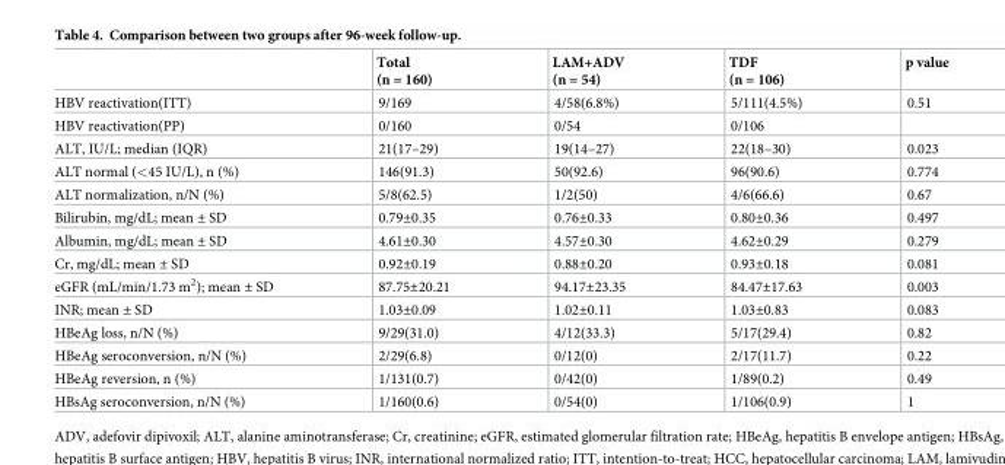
<table><thead><tr><td></td><td>Total (n = 160)</td><td>LAM+ADV (n = 54)</td><td>TDF (n = 106)</td><td>p value</td></tr></thead><tbody><tr><td>HBV reactivation(ITT)</td><td>9/169</td><td>4/58(6.8%)</td><td>5/111(4.5%)</td><td>0.51</td></tr><tr><td>HBV reactivation(PP)</td><td>0/160</td><td>0/54</td><td>0/106</td><td></td></tr><tr><td>ALT, IU/L; median (IQR)</td><td>21(17–29)</td><td>19(14–27)</td><td>22(18–30)</td><td>0.023</td></tr><tr><td>ALT normal (&lt;45 IU/L), n (%)</td><td>146(91.3)</td><td>50(92.6)</td><td>96(90.6)</td><td>0.774</td></tr><tr><td>ALT normalization, n/N (%)</td><td>5/8(62.5)</td><td>1/2(50)</td><td>4/6(66.6)</td><td>0.67</td></tr><tr><td>Bilirubin, mg/dL; mean ± SD</td><td>0.79±0.35</td><td>0.76±0.33</td><td>0.80±0.36</td><td>0.497</td></tr><tr><td>Albumin, mg/dL; mean ± SD</td><td>4.61±0.30</td><td>4.57±0.30</td><td>4.62±0.29</td><td>0.279</td></tr><tr><td>Cr, mg/dL; mean ± SD</td><td>0.92±0.19</td><td>0.88±0.20</td><td>0.93±0.18</td><td>0.081</td></tr><tr><td>eGFR (mL/min/1.73 m<sup>2</sup>); mean ± SD</td><td>87.75±20.21</td><td>94.17±23.35</td><td>84.47±17.63</td><td>0.003</td></tr><tr><td>INR; mean ± SD</td><td>1.03±0.09</td><td>1.02±0.11</td><td>1.03±0.83</td><td>0.083</td></tr><tr><td>HBeAg loss, n/N (%)</td><td>9/29(31.0)</td><td>4/12(33.3)</td><td>5/17(29.4)</td><td>0.82</td></tr><tr><td>HBeAg seroconversion, n/N (%)</td><td>2/29(6.8)</td><td>0/12(0)</td><td>2/17(11.7)</td><td>0.22</td></tr><tr><td>HBeAg reversion, n (%)</td><td>1/131(0.7)</td><td>0/42(0)</td><td>1/89(0.2)</td><td>0.49</td></tr><tr><td>HBsAg seroconversion, n/N (%)</td><td>1/160(0.6)</td><td>0/54(0)</td><td>1/106(0.9)</td><td>1</td></tr></tbody></table>